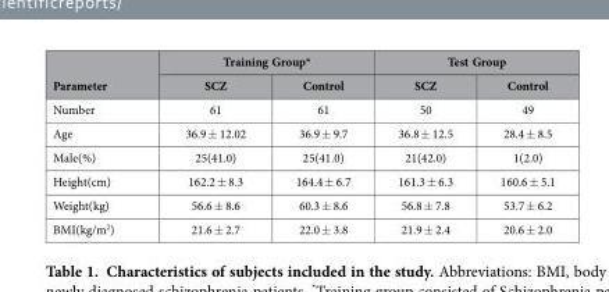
<table><thead><tr><td rowspan="2">Parameter</td><td colspan="2">Training Group*</td><td colspan="2">Test Group</td></tr><tr><td>SCZ</td><td>Control</td><td>SCZ</td><td>Control</td></tr></thead><tbody><tr><td>Number</td><td>61</td><td>61</td><td>50</td><td>49</td></tr><tr><td>Age</td><td>36.9 ± 12.02</td><td>36.9 ± 9.7</td><td>36.8 ± 12.5</td><td>28.4 ± 8.5</td></tr><tr><td>Male(%)</td><td>25(41.0)</td><td>25(41.0)</td><td>21(42.0)</td><td>1(2.0)</td></tr><tr><td>Height(cm)</td><td>162.2 ± 8.3</td><td>164.4 ± 6.7</td><td>161.3 ± 6.3</td><td>160.6 ± 5.1</td></tr><tr><td>Weight(kg)</td><td>56.6 ± 8.6</td><td>60.3 ± 8.6</td><td>56.8 ± 7.8</td><td>53.7 ± 6.2</td></tr><tr><td>BMI(kg/m<sup>2</sup>)</td><td>21.6 ± 2.7</td><td>22.0 ± 3.8</td><td>21.9 ± 2.4</td><td>20.6 ± 2.0</td></tr></tbody></table>